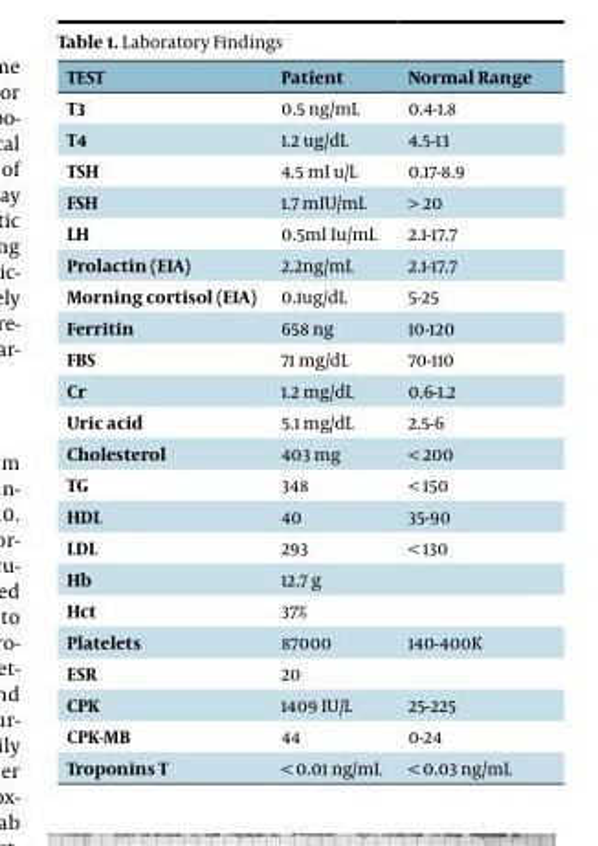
<table><thead><tr><td>TEST</td><td>Patient</td><td>Normal Range</td></tr></thead><tbody><tr><td>T3</td><td>0.5 ng/mL</td><td>0.4-1.8</td></tr><tr><td>T4</td><td>1.2 ug/dL</td><td>4.5-13</td></tr><tr><td>TSH</td><td>4.5 mI u/L</td><td>0.17-8.9</td></tr><tr><td>FSH</td><td>1.7 mIU/mL</td><td>&gt; 20</td></tr><tr><td>LH</td><td>0.5ml Iu/mL</td><td>2.1-17.7</td></tr><tr><td>Prolactin (EIA)</td><td>2.2ng/mL</td><td>2.1-17.7</td></tr><tr><td>Morning cortisol (EIA)</td><td>0.1ug/dL</td><td>5-25</td></tr><tr><td>Ferritin</td><td>658 ng</td><td>10-120</td></tr><tr><td>FBS</td><td>71 mg/dL</td><td>70-110</td></tr><tr><td>Cr</td><td>1.2 mg/dL</td><td>0.6-1.2</td></tr><tr><td>Uric acid</td><td>5.1 mg/dL</td><td>2.5-6</td></tr><tr><td>Cholesterol</td><td>403 mg</td><td>&lt; 200</td></tr><tr><td>TG</td><td>348</td><td>&lt; 150</td></tr><tr><td>HDL</td><td>40</td><td>35-90</td></tr><tr><td>LDL</td><td>293</td><td>&lt; 130</td></tr><tr><td>Hb</td><td>12.7 g</td><td></td></tr><tr><td>Hct</td><td>37%</td><td></td></tr><tr><td>Platelets</td><td>87000</td><td>140-400K</td></tr><tr><td>ESR</td><td>20</td><td></td></tr><tr><td>CPK</td><td>1409 IU/L</td><td>25-225</td></tr><tr><td>CPK-MB</td><td>44</td><td>0-24</td></tr><tr><td>Troponins T</td><td>&lt; 0.01 ng/mL</td><td>&lt; 0.03 ng/mL</td></tr></tbody></table>